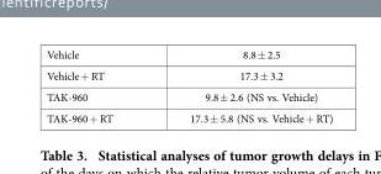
<table><tbody><tr><td>Vehicle</td><td>8.8 ± 2.5</td></tr><tr><td>Vehicle + RT</td><td>17.3 ± 3.2</td></tr><tr><td>TAK-960</td><td>9.8 ± 2.6 (NS vs. Vehicle)</td></tr><tr><td>TAK-960 + RT</td><td>17.3 ± 5.8 (NS vs. Vehicle + RT)</td></tr></tbody></table>